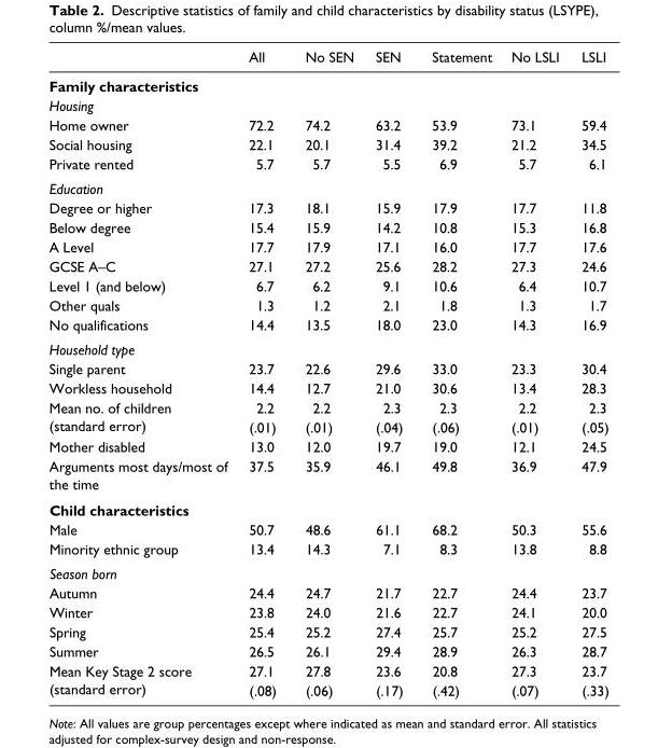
<table><thead><tr><td></td><td>All</td><td>No SEN</td><td>SEN</td><td>Statement</td><td>No LSLI</td><td>LSLI</td></tr></thead><tbody><tr><td colspan="7">Family characteristics</td></tr><tr><td colspan="7">Housing</td></tr><tr><td>Home owner</td><td>72.2</td><td>74.2</td><td>63.2</td><td>53.9</td><td>73.1</td><td>59.4</td></tr><tr><td>Social housing</td><td>22.1</td><td>20.1</td><td>31.4</td><td>39.2</td><td>21.2</td><td>34.5</td></tr><tr><td>Private rented</td><td>5.7</td><td>5.7</td><td>5.5</td><td>6.9</td><td>5.7</td><td>6.1</td></tr><tr><td colspan="7">Education</td></tr><tr><td>Degree or higher</td><td>17.3</td><td>18.1</td><td>15.9</td><td>17.9</td><td>17.7</td><td>11.8</td></tr><tr><td>Below degree</td><td>15.4</td><td>15.9</td><td>14.2</td><td>10.8</td><td>15.3</td><td>16.8</td></tr><tr><td>A Level</td><td>17.7</td><td>17.9</td><td>17.1</td><td>16.0</td><td>17.7</td><td>17.6</td></tr><tr><td>GCSE A–C</td><td>27.1</td><td>27.2</td><td>25.6</td><td>28.2</td><td>27.3</td><td>24.6</td></tr><tr><td>Level 1 (and below)</td><td>6.7</td><td>6.2</td><td>9.1</td><td>10.6</td><td>6.4</td><td>10.7</td></tr><tr><td>Other quals</td><td>1.3</td><td>1.2</td><td>2.1</td><td>1.8</td><td>1.3</td><td>1.7</td></tr><tr><td>No qualifications</td><td>14.4</td><td>13.5</td><td>18.0</td><td>23.0</td><td>14.3</td><td>16.9</td></tr><tr><td colspan="7">Household type</td></tr><tr><td>Single parent</td><td>23.7</td><td>22.6</td><td>29.6</td><td>33.0</td><td>23.3</td><td>30.4</td></tr><tr><td>Workless household</td><td>14.4</td><td>12.7</td><td>21.0</td><td>30.6</td><td>13.4</td><td>28.3</td></tr><tr><td rowspan="2">Mean no. of children (standard error)</td><td>2.2</td><td>2.2</td><td>2.3</td><td>2.3</td><td>2.2</td><td>2.3</td></tr><tr><td>(.01)</td><td>(.01)</td><td>(.04)</td><td>(.06)</td><td>(.01)</td><td>(.05)</td></tr><tr><td>Mother disabled</td><td>13.0</td><td>12.0</td><td>19.7</td><td>19.0</td><td>12.1</td><td>24.5</td></tr><tr><td>Arguments most days/most of the time</td><td>37.5</td><td>35.9</td><td>46.1</td><td>49.8</td><td>36.9</td><td>47.9</td></tr><tr><td colspan="7">Child characteristics</td></tr><tr><td>Male</td><td>50.7</td><td>48.6</td><td>61.1</td><td>68.2</td><td>50.3</td><td>55.6</td></tr><tr><td>Minority ethnic group</td><td>13.4</td><td>14.3</td><td>7.1</td><td>8.3</td><td>13.8</td><td>8.8</td></tr><tr><td colspan="7">Season born</td></tr><tr><td>Autumn</td><td>24.4</td><td>24.7</td><td>21.7</td><td>22.7</td><td>24.4</td><td>23.7</td></tr><tr><td>Winter</td><td>23.8</td><td>24.0</td><td>21.6</td><td>22.7</td><td>24.1</td><td>20.0</td></tr><tr><td>Spring</td><td>25.4</td><td>25.2</td><td>27.4</td><td>25.7</td><td>25.2</td><td>27.5</td></tr><tr><td>Summer</td><td>26.5</td><td>26.1</td><td>29.4</td><td>28.9</td><td>26.3</td><td>28.7</td></tr><tr><td rowspan="2">Mean Key Stage 2 score (standard error)</td><td>27.1</td><td>27.8</td><td>23.6</td><td>20.8</td><td>27.3</td><td>23.7</td></tr><tr><td>(.08)</td><td>(.06)</td><td>(.17)</td><td>(.42)</td><td>(.07)</td><td>(.33)</td></tr></tbody></table>